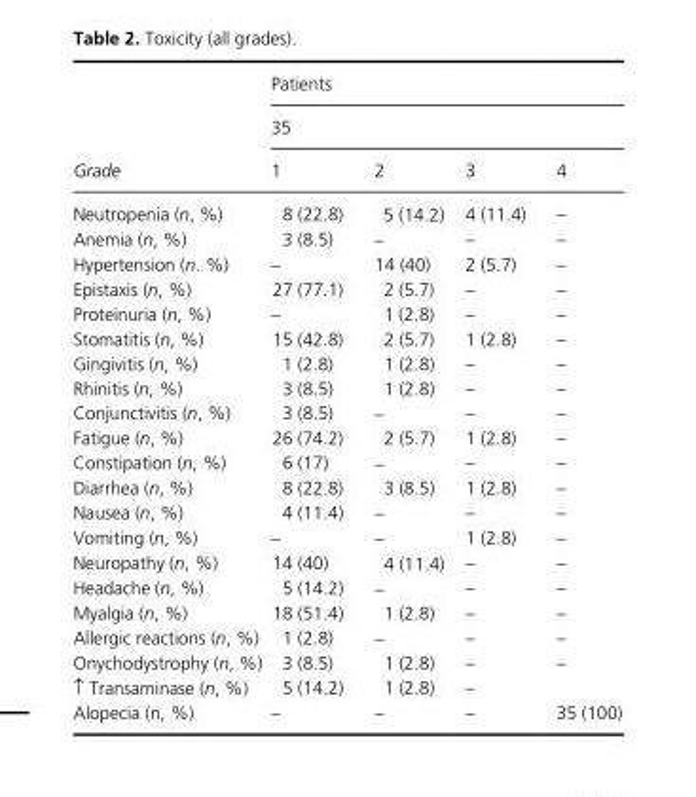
<table><thead><tr><td rowspan="3">Grade</td><td rowspan="2" colspan="4">Patients 35</td></tr><tr></tr><tr><td>1</td><td>2</td><td>3</td><td>4</td></tr></thead><tbody><tr><td>Neutropenia (n, %)</td><td>8 (22.8)</td><td>5 (14.2)</td><td>4 (11.4)</td><td>–</td></tr><tr><td>Anemia (n, %)</td><td>3 (8.5)</td><td>–</td><td>–</td><td>–</td></tr><tr><td>Hypertension (n. %)</td><td>–</td><td>14 (40)</td><td>2 (5.7)</td><td>–</td></tr><tr><td>Epistaxis (n, %)</td><td>27 (77.1)</td><td>2 (5.7)</td><td>–</td><td>–</td></tr><tr><td>Proteinuria (n, %)</td><td>–</td><td>1 (2.8)</td><td>–</td><td>–</td></tr><tr><td>Stomatitis (n, %)</td><td>15 (42.8)</td><td>2 (5.7)</td><td>1 (2.8)</td><td>–</td></tr><tr><td>Gingivitis (n, %)</td><td>1 (2.8)</td><td>1 (2.8)</td><td>–</td><td>–</td></tr><tr><td>Rhinitis (n, %)</td><td>3 (8.5)</td><td>1 (2.8)</td><td>–</td><td>–</td></tr><tr><td>Conjunctivitis (n, %)</td><td>3 (8.5)</td><td>–</td><td>–</td><td>–</td></tr><tr><td>Fatigue (n, %)</td><td>26 (74.2)</td><td>2 (5.7)</td><td>1 (2.8)</td><td>–</td></tr><tr><td>Constipation (n, %)</td><td>6 (17)</td><td>–</td><td>–</td><td>–</td></tr><tr><td>Diarrhea (n, %)</td><td>8 (22.8)</td><td>3 (8.5)</td><td>1 (2.8)</td><td>–</td></tr><tr><td>Nausea (n, %)</td><td>4 (11.4)</td><td>–</td><td>–</td><td>–</td></tr><tr><td>Vomiting (n, %)</td><td>–</td><td>–</td><td>1 (2.8)</td><td>–</td></tr><tr><td>Neuropathy (n, %)</td><td>14 (40)</td><td>4 (11.4)</td><td>–</td><td>–</td></tr><tr><td>Headache (n, %)</td><td>5 (14.2)</td><td>–</td><td>–</td><td>–</td></tr><tr><td>Myalgia (n, %)</td><td>18 (51.4)</td><td>1 (2.8)</td><td>–</td><td>–</td></tr><tr><td>Allergic reactions (n, %)</td><td>1 (2.8)</td><td>–</td><td>–</td><td>–</td></tr><tr><td>Onychodystrophy (n, %)</td><td>3 (8.5)</td><td>1 (2.8)</td><td>–</td><td>–</td></tr><tr><td>↑ Transaminase (n, %)</td><td>5 (14.2)</td><td>1 (2.8)</td><td>–</td><td></td></tr><tr><td>Alopecia (n, %)</td><td>–</td><td>–</td><td>–</td><td>35 (100)</td></tr></tbody></table>